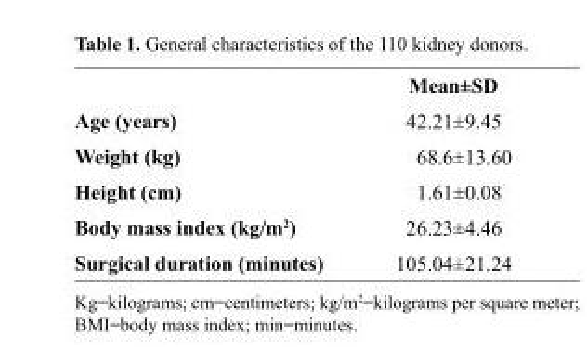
<table><thead><tr><td></td><td>Mean±SD</td></tr></thead><tbody><tr><td>Age (years)</td><td>42.21±9.45</td></tr><tr><td>Weight (kg)</td><td>68.6±13.60</td></tr><tr><td>Height (cm)</td><td>1.61±0.08</td></tr><tr><td>Body mass index (kg/m<sup>2</sup>)</td><td>26.23±4.46</td></tr><tr><td>Surgical duration (minutes)</td><td>105.04±21.24</td></tr></tbody></table>